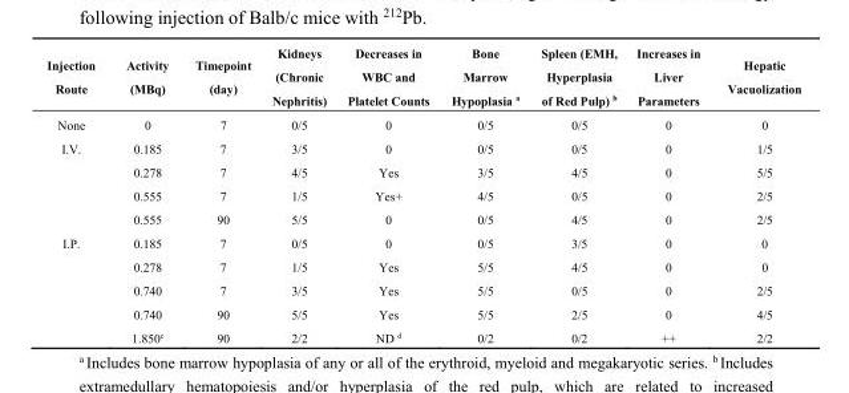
<table><thead><tr><td>Injection Route</td><td>Activity (MBq)</td><td>Timepoint (day)</td><td>Kidneys (Chronic Nephritis)</td><td>Decreases in WBC and Platelet Counts</td><td>Bone Marrow Hypoplasia <sup>a</sup></td><td>Spleen (EMH, Hyperplasia of Red Pulp) <sup>b</sup></td><td>Increases in Liver Parameters</td><td>Hepatic Vacuolization</td></tr></thead><tbody><tr><td>None</td><td>0</td><td>7</td><td>0/5</td><td>0</td><td>0/5</td><td>0/5</td><td>0</td><td>0</td></tr><tr><td rowspan="4">I.V.</td><td>0.185</td><td>7</td><td>3/5</td><td>0</td><td>0/5</td><td>0/5</td><td>0</td><td>1/5</td></tr><tr><td>0.278</td><td>7</td><td>4/5</td><td>Yes</td><td>3/5</td><td>4/5</td><td>0</td><td>5/5</td></tr><tr><td>0.555</td><td>7</td><td>1/5</td><td>Yes+</td><td>4/5</td><td>0/5</td><td>0</td><td>2/5</td></tr><tr><td>0.555</td><td>90</td><td>5/5</td><td>0</td><td>0/5</td><td>4/5</td><td>0</td><td>2/5</td></tr><tr><td rowspan="5">I.P.</td><td>0.185</td><td>7</td><td>0/5</td><td>0</td><td>0/5</td><td>3/5</td><td>0</td><td>0</td></tr><tr><td>0.278</td><td>7</td><td>1/5</td><td>Yes</td><td>5/5</td><td>4/5</td><td>0</td><td>0</td></tr><tr><td>0.740</td><td>7</td><td>3/5</td><td>Yes</td><td>5/5</td><td>0/5</td><td>0</td><td>2/5</td></tr><tr><td>0.740</td><td>90</td><td>5/5</td><td>Yes</td><td>5/5</td><td>2/5</td><td>0</td><td>4/5</td></tr><tr><td>1.850<sup>c</sup></td><td>90</td><td>2/2</td><td>ND <sup>d</sup></td><td>0/2</td><td>0/2</td><td>++</td><td>2/2</td></tr></tbody></table>